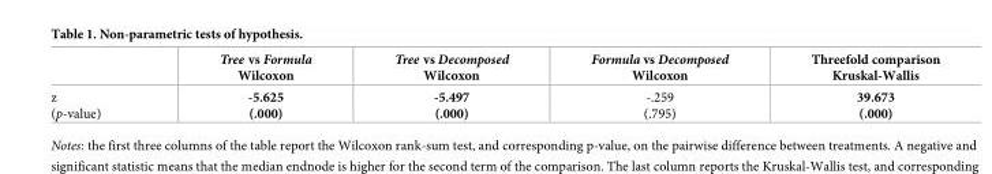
<table><thead><tr><td></td><td>Tree vs Formula Wilcoxon</td><td>Tree vs Decomposed Wilcoxon</td><td>Formula vs Decomposed Wilcoxon</td><td>Threefold comparison Kruskal-Wallis</td></tr></thead><tbody><tr><td>z (p-value)</td><td>-5.625 (.000)</td><td>-5.497 (.000)</td><td>-.259 (.795)</td><td>39.673 (.000)</td></tr></tbody></table>